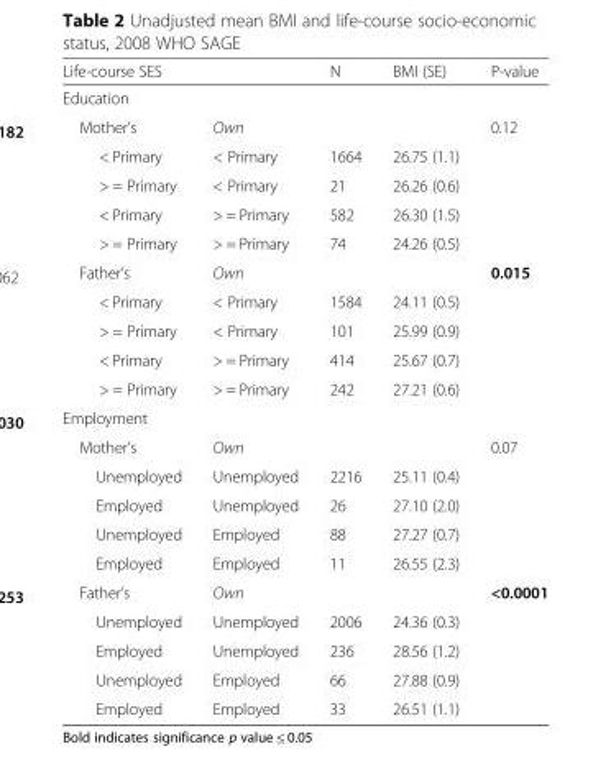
<table><thead><tr><td>Life-course SES</td><td></td><td>N</td><td>BMI (SE)</td><td>P-value</td></tr></thead><tbody><tr><td colspan="5">Education</td></tr><tr><td>Mother’s</td><td>Own</td><td></td><td></td><td>0.12</td></tr><tr><td>&lt; Primary</td><td>&lt; Primary</td><td>1664</td><td>26.75 (1.1)</td><td></td></tr><tr><td>&gt; = Primary</td><td>&lt; Primary</td><td>21</td><td>26.26 (0.6)</td><td></td></tr><tr><td>&lt; Primary</td><td>&gt; = Primary</td><td>582</td><td>26.30 (1.5)</td><td></td></tr><tr><td>&gt; = Primary</td><td>&gt; = Primary</td><td>74</td><td>24.26 (0.5)</td><td></td></tr><tr><td>Father’s</td><td>Own</td><td></td><td></td><td>0.015</td></tr><tr><td>&lt; Primary</td><td>&lt; Primary</td><td>1584</td><td>24.11 (0.5)</td><td></td></tr><tr><td>&gt; = Primary</td><td>&lt; Primary</td><td>101</td><td>25.99 (0.9)</td><td></td></tr><tr><td>&lt; Primary</td><td>&gt; = Primary</td><td>414</td><td>25.67 (0.7)</td><td></td></tr><tr><td>&gt; = Primary</td><td>&gt; = Primary</td><td>242</td><td>27.21 (0.6)</td><td></td></tr><tr><td colspan="5">Employment</td></tr><tr><td>Mother’s</td><td>Own</td><td></td><td></td><td>0.07</td></tr><tr><td>Unemployed</td><td>Unemployed</td><td>2216</td><td>25.11 (0.4)</td><td></td></tr><tr><td>Employed</td><td>Unemployed</td><td>26</td><td>27.10 (2.0)</td><td></td></tr><tr><td>Unemployed</td><td>Employed</td><td>88</td><td>27.27 (0.7)</td><td></td></tr><tr><td>Employed</td><td>Employed</td><td>11</td><td>26.55 (2.3)</td><td></td></tr><tr><td>Father’s</td><td>Own</td><td></td><td></td><td>&lt;0.0001</td></tr><tr><td>Unemployed</td><td>Unemployed</td><td>2006</td><td>24.36 (0.3)</td><td></td></tr><tr><td>Employed</td><td>Unemployed</td><td>236</td><td>28.56 (1.2)</td><td></td></tr><tr><td>Unemployed</td><td>Employed</td><td>66</td><td>27.88 (0.9)</td><td></td></tr><tr><td>Employed</td><td>Employed</td><td>33</td><td>26.51 (1.1)</td><td></td></tr></tbody></table>